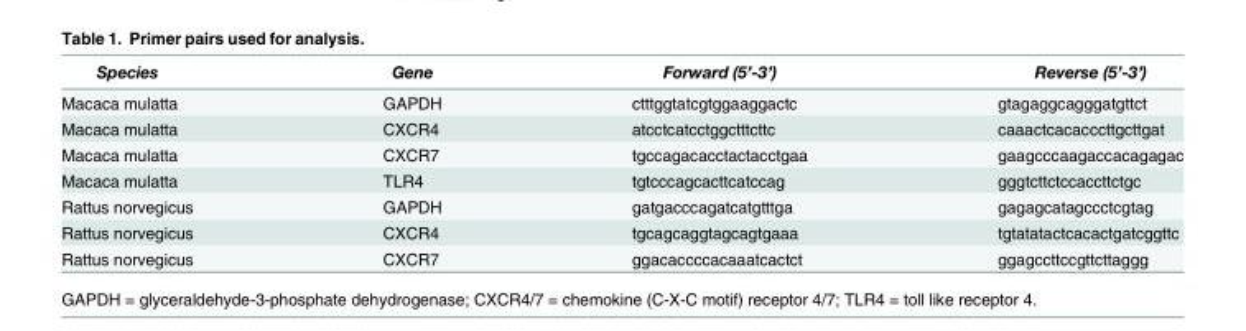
<table><thead><tr><td>Species</td><td>Gene</td><td>Forward (5’-3’)</td><td>Reverse (5’-3’)</td></tr></thead><tbody><tr><td>Macaca mulatta</td><td>GAPDH</td><td>ctttggtatcgtggaaggactc</td><td>gtagaggcagggatgttct</td></tr><tr><td>Macaca mulatta</td><td>CXCR4</td><td>atcctcatcctggctttcttc</td><td>caaactcacacccttgcttgat</td></tr><tr><td>Macaca mulatta</td><td>CXCR7</td><td>tgccagacacctactacctgaa</td><td>gaagcccaagaccacagagac</td></tr><tr><td>Macaca mulatta</td><td>TLR4</td><td>tgtcccagcacttcatccag</td><td>gggtcttctccaccttctgc</td></tr><tr><td>Rattus norvegicus</td><td>GAPDH</td><td>gatgacccagatcatgtttga</td><td>gagagcatagccctcgtag</td></tr><tr><td>Rattus norvegicus</td><td>CXCR4</td><td>tgcagcaggtagcagtgaaa</td><td>tgtatatactcacactgatcggttc</td></tr><tr><td>Rattus norvegicus</td><td>CXCR7</td><td>ggacaccccacaaatcactct</td><td>ggagccttccgttcttaggg</td></tr></tbody></table>